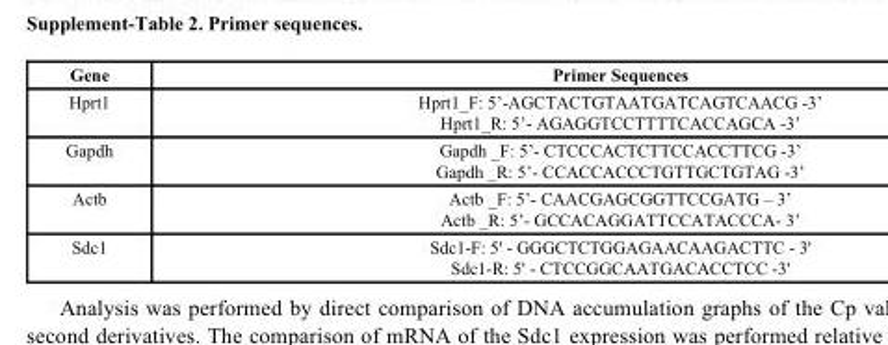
<table><thead><tr><td>Gene</td><td>Primer Sequences</td></tr></thead><tbody><tr><td>Hprt1</td><td>Hprt1_F: 5’-AGCTACTGTAATGATCAGTCAACG -3’ Hprt1_R: 5’- AGAGGTCCTTTTCACCAGCA -3’</td></tr><tr><td>Gapdh</td><td>Gapdh _F: 5’- CTCCCACTCTTCCACCTTCG -3’ Gapdh _R: 5’- CCACCACCCTGTTGCTGTAG -3’</td></tr><tr><td>Actb</td><td>Actb _F: 5’- CAACGAGCGGTTCCGATG – 3’ Actb _R: 5’- GCCACAGGATTCCATACCCA- 3’</td></tr><tr><td>Sdc1</td><td>Sdc1-F: 5&#x27; - GGGCTCTGGAGAACAAGACTTC - 3&#x27; Sdc1-R: 5&#x27; - CTCCGGCAATGACACCTCC -3&#x27;</td></tr></tbody></table>